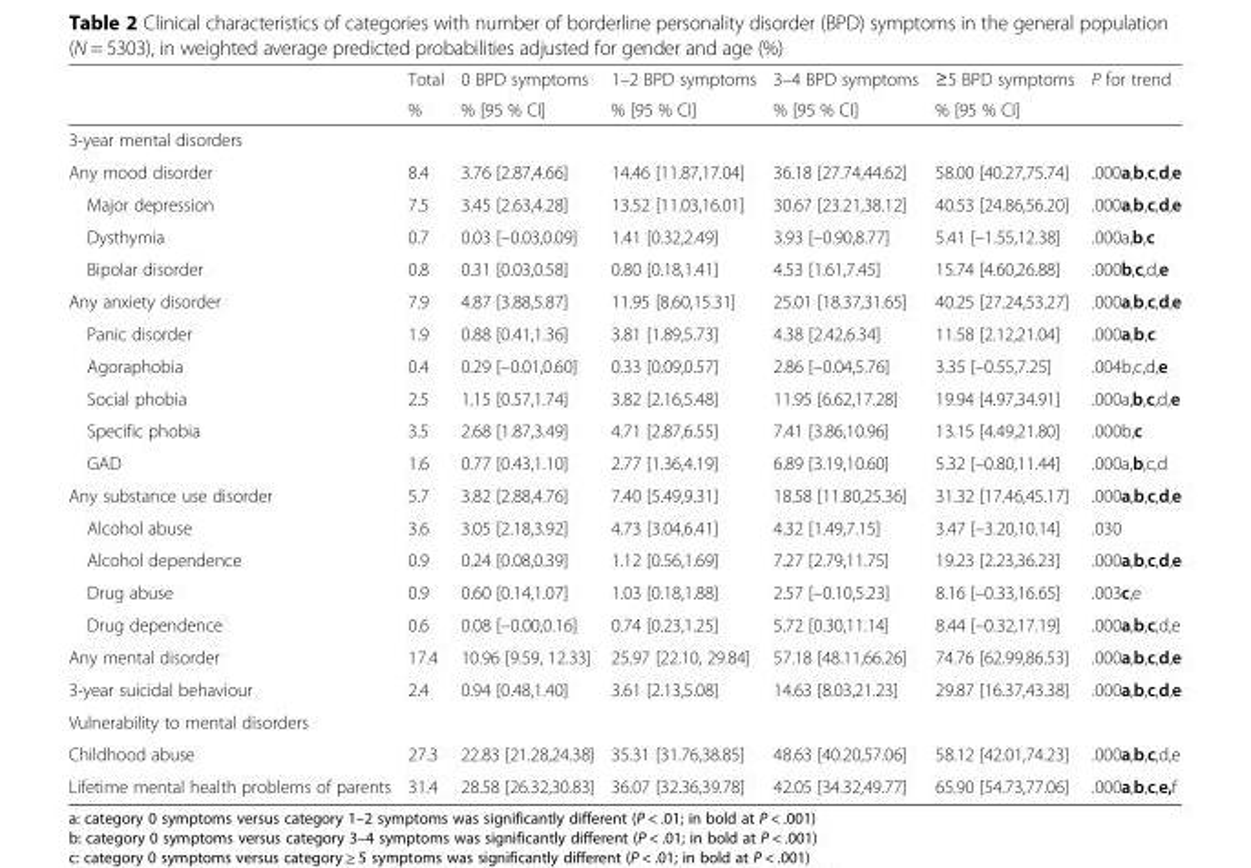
<table><thead><tr><td rowspan="2"></td><td rowspan="2">Total %</td><td rowspan="2">0 BPD symptoms % [95 % CI]</td><td rowspan="2">1–2 BPD symptoms % [95 % CI]</td><td rowspan="2">3–4 BPD symptoms % [95 % CI]</td><td rowspan="2">≥5 BPD symptoms % [95 % CI]</td><td rowspan="2">P for trend</td></tr><tr></tr></thead><tbody><tr><td colspan="7">3-year mental disorders</td></tr><tr><td>Any mood disorder</td><td>8.4</td><td>3.76 [2.87,4.66]</td><td>14.46 [11.87,17.04]</td><td>36.18 [27.74,44.62]</td><td>58.00 [40.27,75.74]</td><td>.000a,b,c,d,e</td></tr><tr><td>Major depression</td><td>7.5</td><td>3.45 [2.63,4.28]</td><td>13.52 [11.03,16.01]</td><td>30.67 [23.21,38.12]</td><td>40.53 [24.86,56.20]</td><td>.000a,b,c,d,e</td></tr><tr><td>Dysthymia</td><td>0.7</td><td>0.03 [–0.03,0.09]</td><td>1.41 [0.32,2.49]</td><td>3.93 [–0.90,8.77]</td><td>5.41 [–1.55,12.38]</td><td>.000a,b,c</td></tr><tr><td>Bipolar disorder</td><td>0.8</td><td>0.31 [0.03,0.58]</td><td>0.80 [0.18,1.41]</td><td>4.53 [1.61,7.45]</td><td>15.74 [4.60,26.88]</td><td>.000b,c,d,e</td></tr><tr><td>Any anxiety disorder</td><td>7.9</td><td>4.87 [3.88,5.87]</td><td>11.95 [8.60,15.31]</td><td>25.01 [18.37,31.65]</td><td>40.25 [27.24,53.27]</td><td>.000a,b,c,d,e</td></tr><tr><td>Panic disorder</td><td>1.9</td><td>0.88 [0.41,1.36]</td><td>3.81 [1.89,5.73]</td><td>4.38 [2.42,6.34]</td><td>11.58 [2.12,21.04]</td><td>.000a,b,c</td></tr><tr><td>Agoraphobia</td><td>0.4</td><td>0.29 [–0.01,0.60]</td><td>0.33 [0.09,0.57]</td><td>2.86 [–0.04,5.76]</td><td>3.35 [–0.55,7.25]</td><td>.004b,c,d,e</td></tr><tr><td>Social phobia</td><td>2.5</td><td>1.15 [0.57,1.74]</td><td>3.82 [2.16,5.48]</td><td>11.95 [6.62,17.28]</td><td>19.94 [4.97,34.91]</td><td>.000a,b,c,d,e</td></tr><tr><td>Specific phobia</td><td>3.5</td><td>2.68 [1.87,3.49]</td><td>4.71 [2.87,6.55]</td><td>7.41 [3.86,10.96]</td><td>13.15 [4.49,21.80]</td><td>.000b,c</td></tr><tr><td>GAD</td><td>1.6</td><td>0.77 [0.43,1.10]</td><td>2.77 [1.36,4.19]</td><td>6.89 [3.19,10.60]</td><td>5.32 [–0.80,11.44]</td><td>.000a,b,c,d</td></tr><tr><td>Any substance use disorder</td><td>5.7</td><td>3.82 [2.88,4.76]</td><td>7.40 [5.49,9.31]</td><td>18.58 [11.80,25.36]</td><td>31.32 [17.46,45.17]</td><td>.000a,b,c,d,e</td></tr><tr><td>Alcohol abuse</td><td>3.6</td><td>3.05 [2.18,3.92]</td><td>4.73 [3.04,6.41]</td><td>4.32 [1.49,7.15]</td><td>3.47 [–3.20,10.14]</td><td>.030</td></tr><tr><td>Alcohol dependence</td><td>0.9</td><td>0.24 [0.08,0.39]</td><td>1.12 [0.56,1.69]</td><td>7.27 [2.79,11.75]</td><td>19.23 [2.23,36.23]</td><td>.000a,b,c,d,e</td></tr><tr><td>Drug abuse</td><td>0.9</td><td>0.60 [0.14,1.07]</td><td>1.03 [0.18,1.88]</td><td>2.57 [–0.10,5.23]</td><td>8.16 [–0.33,16.65]</td><td>.003c,e</td></tr><tr><td>Drug dependence</td><td>0.6</td><td>0.08 [–0.00,0.16]</td><td>0.74 [0.23,1.25]</td><td>5.72 [0.30,11.14]</td><td>8.44 [–0.32,17.19]</td><td>.000a,b,c,d,e</td></tr><tr><td>Any mental disorder</td><td>17.4</td><td>10.96 [9.59, 12.33]</td><td>25.97 [22.10, 29.84]</td><td>57.18 [48.11,66.26]</td><td>74.76 [62.99,86.53]</td><td>.000a,b,c,d,e</td></tr><tr><td>3-year suicidal behaviour</td><td>2.4</td><td>0.94 [0.48,1.40]</td><td>3.61 [2.13,5.08]</td><td>14.63 [8.03,21.23]</td><td>29.87 [16.37,43.38]</td><td>.000a,b,c,d,e</td></tr><tr><td colspan="7">Vulnerability to mental disorders</td></tr><tr><td>Childhood abuse</td><td>27.3</td><td>22.83 [21.28,24.38]</td><td>35.31 [31.76,38.85]</td><td>48.63 [40.20,57.06]</td><td>58.12 [42.01,74.23]</td><td>.000a,b,c,d,e</td></tr><tr><td>Lifetime mental health problems of parents</td><td>31.4</td><td>28.58 [26.32,30.83]</td><td>36.07 [32.36,39.78]</td><td>42.05 [34.32,49.77]</td><td>65.90 [54.73,77.06]</td><td>.000a,b,c,e,f</td></tr></tbody></table>